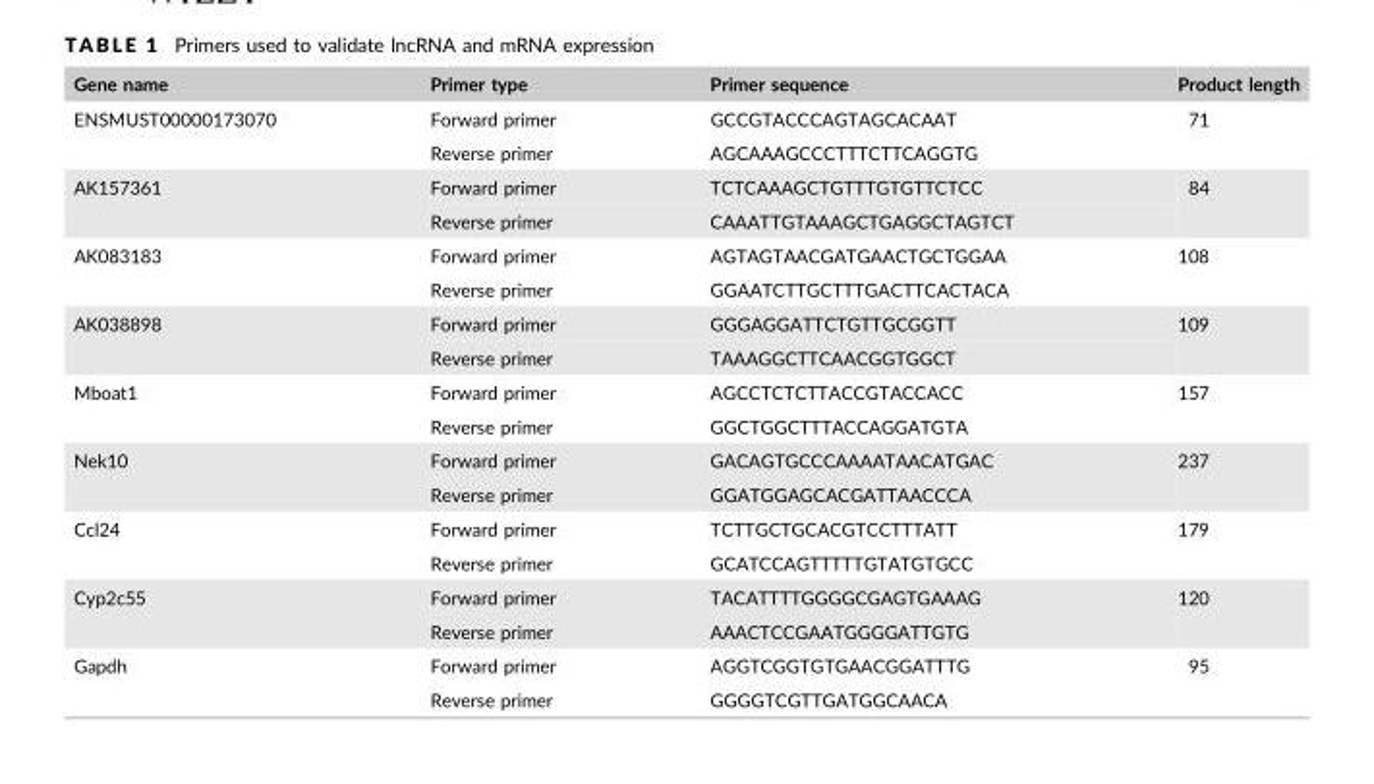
<table><thead><tr><td>Gene name</td><td>Primer type</td><td>Primer sequence</td><td>Product length</td></tr></thead><tbody><tr><td rowspan="2">ENSMUST00000173070</td><td>Forward primer</td><td>GCCGTACCCAGTAGCACAAT</td><td rowspan="2">71</td></tr><tr><td>Reverse primer</td><td>AGCAAAGCCCTTTCTTCAGGTG</td></tr><tr><td rowspan="2">AK157361</td><td>Forward primer</td><td>TCTCAAAGCTGTTTGTGTTCTCC</td><td rowspan="2">84</td></tr><tr><td>Reverse primer</td><td>CAAATTGTAAAGCTGAGGCTAGTCT</td></tr><tr><td rowspan="2">AK083183</td><td>Forward primer</td><td>AGTAGTAACGATGAACTGCTGGAA</td><td rowspan="2">108</td></tr><tr><td>Reverse primer</td><td>GGAATCTTGCTTTGACTTCACTACA</td></tr><tr><td rowspan="2">AK038898</td><td>Forward primer</td><td>GGGAGGATTCTGTTGCGGTT</td><td rowspan="2">109</td></tr><tr><td>Reverse primer</td><td>TAAAGGCTTCAACGGTGGCT</td></tr><tr><td rowspan="2">Mboat1</td><td>Forward primer</td><td>AGCCTCTCTTACCGTACCACC</td><td rowspan="2">157</td></tr><tr><td>Reverse primer</td><td>GGCTGGCTTTACCAGGATGTA</td></tr><tr><td rowspan="2">Nek10</td><td>Forward primer</td><td>GACAGTGCCCAAAATAACATGAC</td><td rowspan="2">237</td></tr><tr><td>Reverse primer</td><td>GGATGGAGCACGATTAACCCA</td></tr><tr><td rowspan="2">Ccl24</td><td>Forward primer</td><td>TCTTGCTGCACGTCCTTTATT</td><td rowspan="2">179</td></tr><tr><td>Reverse primer</td><td>GCATCCAGTTTTTGTATGTGCC</td></tr><tr><td rowspan="2">Cyp2c55</td><td>Forward primer</td><td>TACATTTTGGGGCGAGTGAAAG</td><td rowspan="2">120</td></tr><tr><td>Reverse primer</td><td>AAACTCCGAATGGGGATTGTG</td></tr><tr><td rowspan="2">Gapdh</td><td>Forward primer</td><td>AGGTCGGTGTGAACGGATTTG</td><td rowspan="2">95</td></tr><tr><td>Reverse primer</td><td>GGGGTCGTTGATGGCAACA</td></tr></tbody></table>